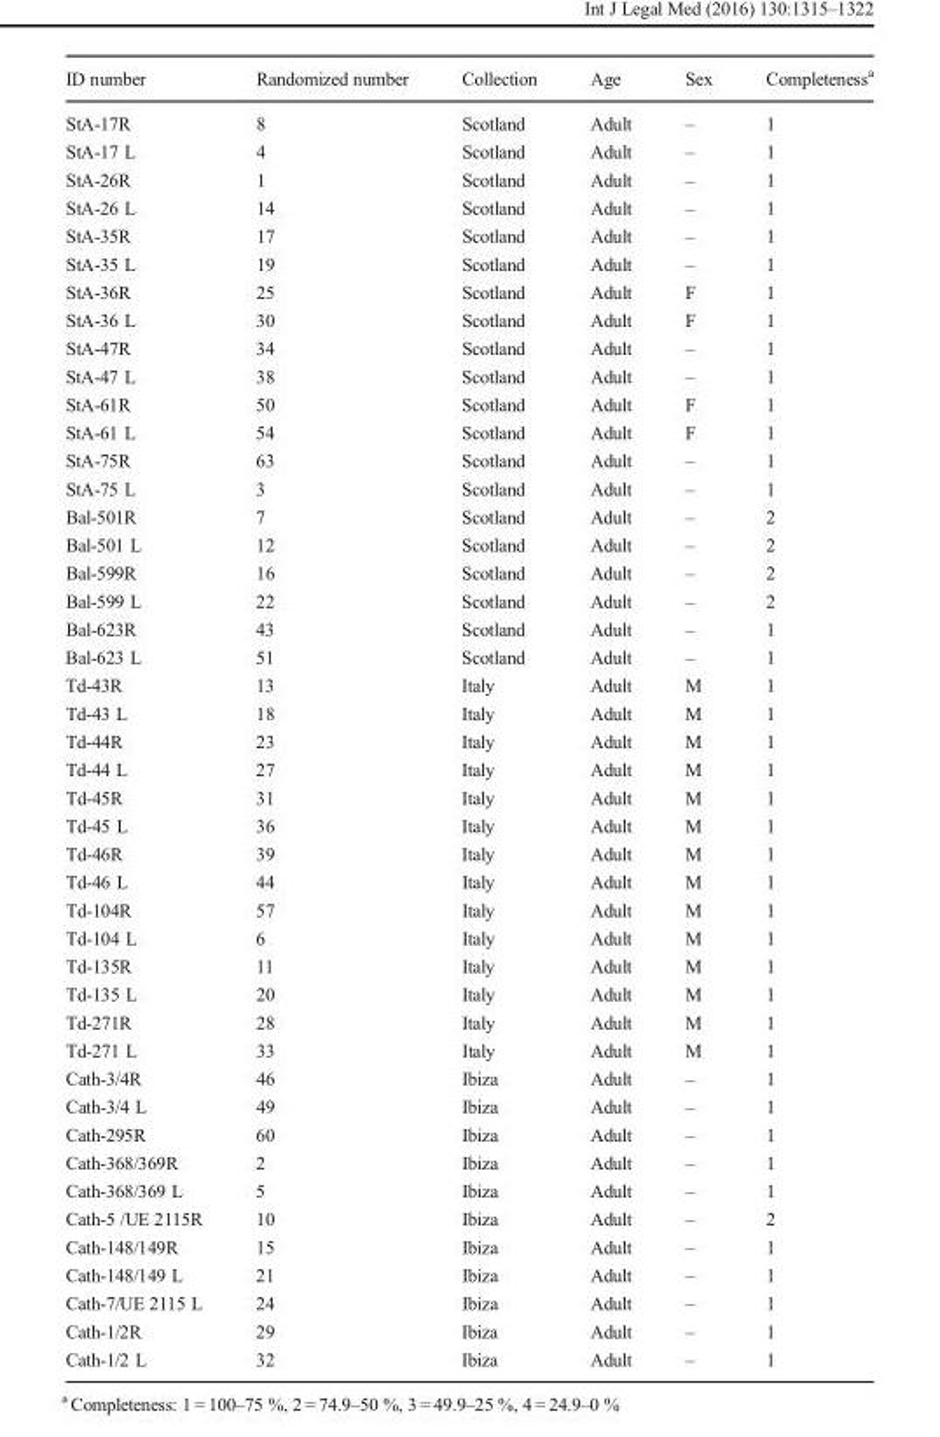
<table><thead><tr><td>ID number</td><td>Randomized number</td><td>Collection</td><td>Age</td><td>Sex</td><td>Completenessa</td></tr></thead><tbody><tr><td>StA-17R</td><td>8</td><td>Scotland</td><td>Adult</td><td>–</td><td>1</td></tr><tr><td>StA-17 L</td><td>4</td><td>Scotland</td><td>Adult</td><td>–</td><td>1</td></tr><tr><td>StA-26R</td><td>1</td><td>Scotland</td><td>Adult</td><td>–</td><td>1</td></tr><tr><td>StA-26 L</td><td>14</td><td>Scotland</td><td>Adult</td><td>–</td><td>1</td></tr><tr><td>StA-35R</td><td>17</td><td>Scotland</td><td>Adult</td><td>–</td><td>1</td></tr><tr><td>StA-35 L</td><td>19</td><td>Scotland</td><td>Adult</td><td>–</td><td>1</td></tr><tr><td>StA-36R</td><td>25</td><td>Scotland</td><td>Adult</td><td>F</td><td>1</td></tr><tr><td>StA-36 L</td><td>30</td><td>Scotland</td><td>Adult</td><td>F</td><td>1</td></tr><tr><td>StA-47R</td><td>34</td><td>Scotland</td><td>Adult</td><td>–</td><td>1</td></tr><tr><td>StA-47 L</td><td>38</td><td>Scotland</td><td>Adult</td><td>–</td><td>1</td></tr><tr><td>StA-61R</td><td>50</td><td>Scotland</td><td>Adult</td><td>F</td><td>1</td></tr><tr><td>StA-61 L</td><td>54</td><td>Scotland</td><td>Adult</td><td>F</td><td>1</td></tr><tr><td>StA-75R</td><td>63</td><td>Scotland</td><td>Adult</td><td>–</td><td>1</td></tr><tr><td>StA-75 L</td><td>3</td><td>Scotland</td><td>Adult</td><td>–</td><td>1</td></tr><tr><td>Bal-501R</td><td>7</td><td>Scotland</td><td>Adult</td><td>–</td><td>2</td></tr><tr><td>Bal-501 L</td><td>12</td><td>Scotland</td><td>Adult</td><td>–</td><td>2</td></tr><tr><td>Bal-599R</td><td>16</td><td>Scotland</td><td>Adult</td><td>–</td><td>2</td></tr><tr><td>Bal-599 L</td><td>22</td><td>Scotland</td><td>Adult</td><td>–</td><td>2</td></tr><tr><td>Bal-623R</td><td>43</td><td>Scotland</td><td>Adult</td><td>–</td><td>1</td></tr><tr><td>Bal-623 L</td><td>51</td><td>Scotland</td><td>Adult</td><td>–</td><td>1</td></tr><tr><td>Td-43R</td><td>13</td><td>Italy</td><td>Adult</td><td>M</td><td>1</td></tr><tr><td>Td-43 L</td><td>18</td><td>Italy</td><td>Adult</td><td>M</td><td>1</td></tr><tr><td>Td-44R</td><td>23</td><td>Italy</td><td>Adult</td><td>M</td><td>1</td></tr><tr><td>Td-44 L</td><td>27</td><td>Italy</td><td>Adult</td><td>M</td><td>1</td></tr><tr><td>Td-45R</td><td>31</td><td>Italy</td><td>Adult</td><td>M</td><td>1</td></tr><tr><td>Td-45 L</td><td>36</td><td>Italy</td><td>Adult</td><td>M</td><td>1</td></tr><tr><td>Td-46R</td><td>39</td><td>Italy</td><td>Adult</td><td>M</td><td>1</td></tr><tr><td>Td-46 L</td><td>44</td><td>Italy</td><td>Adult</td><td>M</td><td>1</td></tr><tr><td>Td-104R</td><td>57</td><td>Italy</td><td>Adult</td><td>M</td><td>1</td></tr><tr><td>Td-104 L</td><td>6</td><td>Italy</td><td>Adult</td><td>M</td><td>1</td></tr><tr><td>Td-135R</td><td>11</td><td>Italy</td><td>Adult</td><td>M</td><td>1</td></tr><tr><td>Td-135 L</td><td>20</td><td>Italy</td><td>Adult</td><td>M</td><td>1</td></tr><tr><td>Td-271R</td><td>28</td><td>Italy</td><td>Adult</td><td>M</td><td>1</td></tr><tr><td>Td-271 L</td><td>33</td><td>Italy</td><td>Adult</td><td>M</td><td>1</td></tr><tr><td>Cath-3/4R</td><td>46</td><td>Ibiza</td><td>Adult</td><td>–</td><td>1</td></tr><tr><td>Cath-3/4 L</td><td>49</td><td>Ibiza</td><td>Adult</td><td>–</td><td>1</td></tr><tr><td>Cath-295R</td><td>60</td><td>Ibiza</td><td>Adult</td><td>–</td><td>1</td></tr><tr><td>Cath-368/369R</td><td>2</td><td>Ibiza</td><td>Adult</td><td>–</td><td>1</td></tr><tr><td>Cath-368/369 L</td><td>5</td><td>Ibiza</td><td>Adult</td><td>–</td><td>1</td></tr><tr><td>Cath-5 /UE 2115R</td><td>10</td><td>Ibiza</td><td>Adult</td><td>–</td><td>2</td></tr><tr><td>Cath-148/149R</td><td>15</td><td>Ibiza</td><td>Adult</td><td>–</td><td>1</td></tr><tr><td>Cath-148/149 L</td><td>21</td><td>Ibiza</td><td>Adult</td><td>–</td><td>1</td></tr><tr><td>Cath-7/UE 2115 L</td><td>24</td><td>Ibiza</td><td>Adult</td><td>–</td><td>1</td></tr><tr><td>Cath-1/2R</td><td>29</td><td>Ibiza</td><td>Adult</td><td>–</td><td>1</td></tr><tr><td>Cath-1/2 L</td><td>32</td><td>Ibiza</td><td>Adult</td><td>–</td><td>1</td></tr></tbody></table>